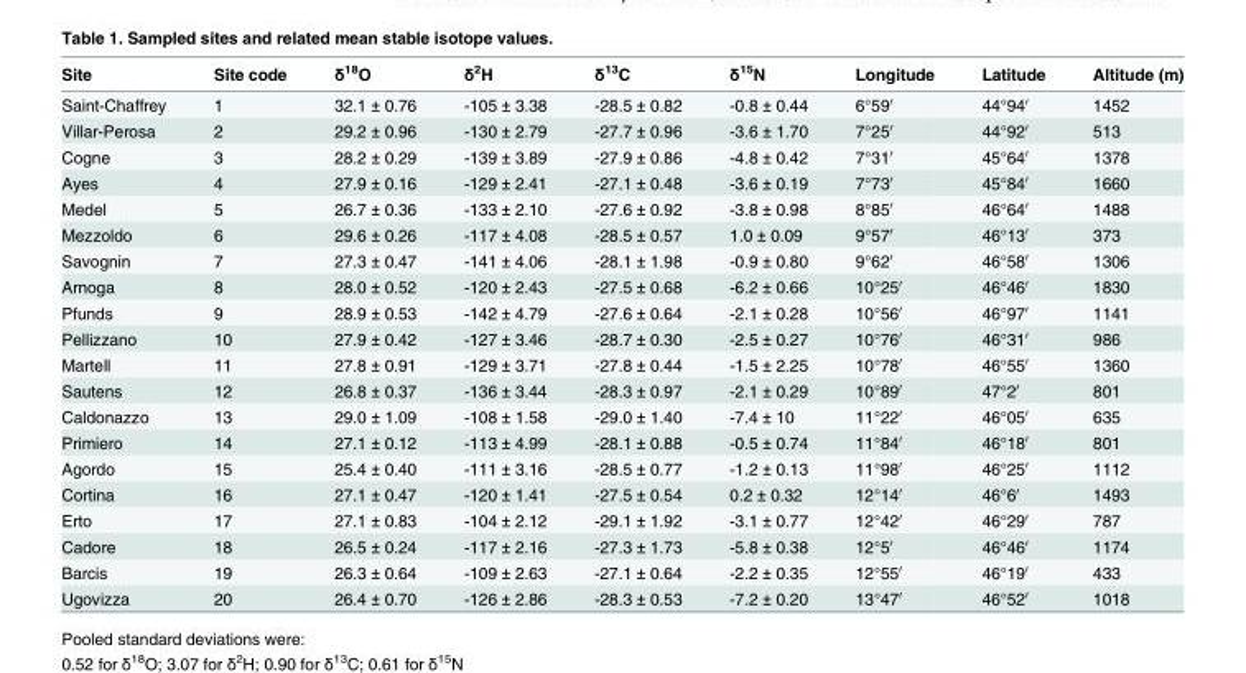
<table><thead><tr><td>Site</td><td>Site code</td><td>δ<sup>18</sup>O</td><td>δ<sup>2</sup>H</td><td>δ<sup>13</sup>C</td><td>δ<sup>15</sup>N</td><td>Longitude</td><td>Latitude</td><td>Altitude (m)</td></tr></thead><tbody><tr><td>Saint-Chaffrey</td><td>1</td><td>32.1 ± 0.76</td><td>-105 ± 3.38</td><td>-28.5 ± 0.82</td><td>-0.8 ± 0.44</td><td>6°59′</td><td>44°94′</td><td>1452</td></tr><tr><td>Villar-Perosa</td><td>2</td><td>29.2 ± 0.96</td><td>-130 ± 2.79</td><td>-27.7 ± 0.96</td><td>-3.6 ± 1.70</td><td>7°25′</td><td>44°92′</td><td>513</td></tr><tr><td>Cogne</td><td>3</td><td>28.2 ± 0.29</td><td>-139 ± 3.89</td><td>-27.9 ± 0.86</td><td>-4.8 ± 0.42</td><td>7°31′</td><td>45°64′</td><td>1378</td></tr><tr><td>Ayes</td><td>4</td><td>27.9 ± 0.16</td><td>-129 ± 2.41</td><td>-27.1 ± 0.48</td><td>-3.6 ± 0.19</td><td>7°73′</td><td>45°84′</td><td>1660</td></tr><tr><td>Medel</td><td>5</td><td>26.7 ± 0.36</td><td>-133 ± 2.10</td><td>-27.6 ± 0.92</td><td>-3.8 ± 0.98</td><td>8°85′</td><td>46°64′</td><td>1488</td></tr><tr><td>Mezzoldo</td><td>6</td><td>29.6 ± 0.26</td><td>-117 ± 4.08</td><td>-28.5 ± 0.57</td><td>1.0 ± 0.09</td><td>9°57′</td><td>46°13′</td><td>373</td></tr><tr><td>Savognin</td><td>7</td><td>27.3 ± 0.47</td><td>-141 ± 4.06</td><td>-28.1 ± 1.98</td><td>-0.9 ± 0.80</td><td>9°62′</td><td>46°58′</td><td>1306</td></tr><tr><td>Arnoga</td><td>8</td><td>28.0 ± 0.52</td><td>-120 ± 2.43</td><td>-27.5 ± 0.68</td><td>-6.2 ± 0.66</td><td>10°25′</td><td>46°46′</td><td>1830</td></tr><tr><td>Pfunds</td><td>9</td><td>28.9 ± 0.53</td><td>-142 ± 4.79</td><td>-27.6 ± 0.64</td><td>-2.1 ± 0.28</td><td>10°56′</td><td>46°97′</td><td>1141</td></tr><tr><td>Pellizzano</td><td>10</td><td>27.9 ± 0.42</td><td>-127 ± 3.46</td><td>-28.7 ± 0.30</td><td>-2.5 ± 0.27</td><td>10°76′</td><td>46°31′</td><td>986</td></tr><tr><td>Martell</td><td>11</td><td>27.8 ± 0.91</td><td>-129 ± 3.71</td><td>-27.8 ± 0.44</td><td>-1.5 ± 2.25</td><td>10°78′</td><td>46°55′</td><td>1360</td></tr><tr><td>Sautens</td><td>12</td><td>26.8 ± 0.37</td><td>-136 ± 3.44</td><td>-28.3 ± 0.97</td><td>-2.1 ± 0.29</td><td>10°89′</td><td>47°2′</td><td>801</td></tr><tr><td>Caldonazzo</td><td>13</td><td>29.0 ± 1.09</td><td>-108 ± 1.58</td><td>-29.0 ± 1.40</td><td>-7.4 ± 10</td><td>11°22′</td><td>46°05′</td><td>635</td></tr><tr><td>Primiero</td><td>14</td><td>27.1 ± 0.12</td><td>-113 ± 4.99</td><td>-28.1 ± 0.88</td><td>-0.5 ± 0.74</td><td>11°84′</td><td>46°18′</td><td>801</td></tr><tr><td>Agordo</td><td>15</td><td>25.4 ± 0.40</td><td>-111 ± 3.16</td><td>-28.5 ± 0.77</td><td>-1.2 ± 0.13</td><td>11°98′</td><td>46°25′</td><td>1112</td></tr><tr><td>Cortina</td><td>16</td><td>27.1 ± 0.47</td><td>-120 ± 1.41</td><td>-27.5 ± 0.54</td><td>0.2 ± 0.32</td><td>12°14′</td><td>46°6′</td><td>1493</td></tr><tr><td>Erto</td><td>17</td><td>27.1 ± 0.83</td><td>-104 ± 2.12</td><td>-29.1 ± 1.92</td><td>-3.1 ± 0.77</td><td>12°42′</td><td>46°29′</td><td>787</td></tr><tr><td>Cadore</td><td>18</td><td>26.5 ± 0.24</td><td>-117 ± 2.16</td><td>-27.3 ± 1.73</td><td>-5.8 ± 0.38</td><td>12°5′</td><td>46°46′</td><td>1174</td></tr><tr><td>Barcis</td><td>19</td><td>26.3 ± 0.64</td><td>-109 ± 2.63</td><td>-27.1 ± 0.64</td><td>-2.2 ± 0.35</td><td>12°55′</td><td>46°19′</td><td>433</td></tr><tr><td>Ugovizza</td><td>20</td><td>26.4 ± 0.70</td><td>-126 ± 2.86</td><td>-28.3 ± 0.53</td><td>-7.2 ± 0.20</td><td>13°47′</td><td>46°52′</td><td>1018</td></tr></tbody></table>